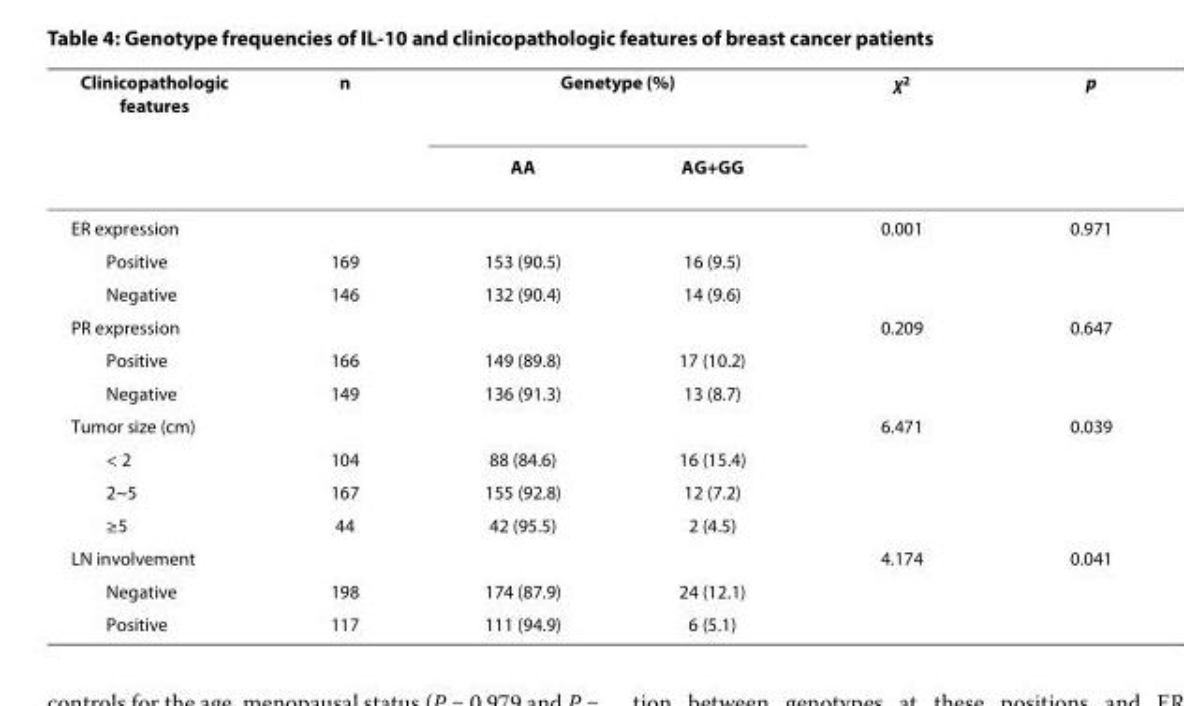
<table><thead><tr><td rowspan="2">Clinicopathologic features</td><td rowspan="2">n</td><td colspan="2">Genetype (%)</td><td rowspan="2">χ<sup>2</sup></td><td rowspan="2">p</td></tr><tr><td>AA</td><td>AG+GG</td></tr></thead><tbody><tr><td>ER expression</td><td></td><td></td><td></td><td>0.001</td><td>0.971</td></tr><tr><td>Positive</td><td>169</td><td>153 (90.5)</td><td>16 (9.5)</td><td></td><td></td></tr><tr><td>Negative</td><td>146</td><td>132 (90.4)</td><td>14 (9.6)</td><td></td><td></td></tr><tr><td>PR expression</td><td></td><td></td><td></td><td>0.209</td><td>0.647</td></tr><tr><td>Positive</td><td>166</td><td>149 (89.8)</td><td>17 (10.2)</td><td></td><td></td></tr><tr><td>Negative</td><td>149</td><td>136 (91.3)</td><td>13 (8.7)</td><td></td><td></td></tr><tr><td>Tumor size (cm)</td><td></td><td></td><td></td><td>6.471</td><td>0.039</td></tr><tr><td>&lt; 2</td><td>104</td><td>88 (84.6)</td><td>16 (15.4)</td><td></td><td></td></tr><tr><td>2~5</td><td>167</td><td>155 (92.8)</td><td>12 (7.2)</td><td></td><td></td></tr><tr><td>≥5</td><td>44</td><td>42 (95.5)</td><td>2 (4.5)</td><td></td><td></td></tr><tr><td>LN involvement</td><td></td><td></td><td></td><td>4.174</td><td>0.041</td></tr><tr><td>Negative</td><td>198</td><td>174 (87.9)</td><td>24 (12.1)</td><td></td><td></td></tr><tr><td>Positive</td><td>117</td><td>111 (94.9)</td><td>6 (5.1)</td><td></td><td></td></tr></tbody></table>